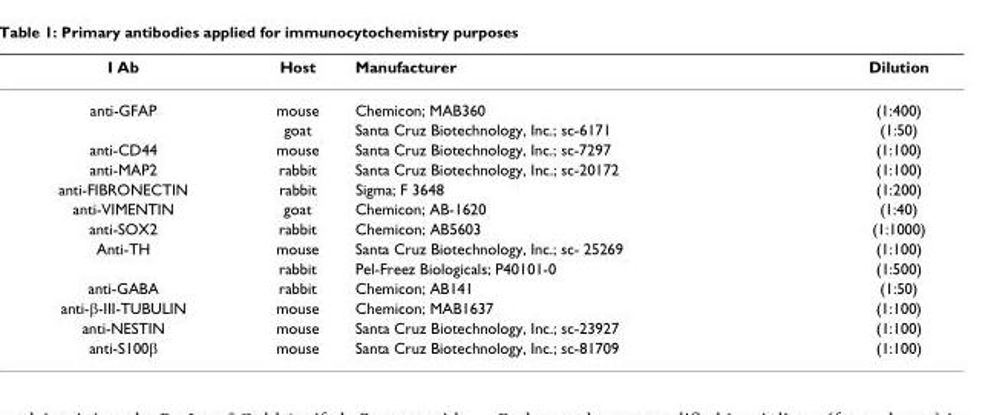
<table><thead><tr><td>I Ab</td><td>Host</td><td>Manufacturer</td><td>Dilution</td></tr></thead><tbody><tr><td rowspan="2">anti-GFAP</td><td>mouse</td><td>Chemicon; MAB360</td><td>(1:400)</td></tr><tr><td>goat</td><td>Santa Cruz Biotechnology, Inc.; sc-6171</td><td>(1:50)</td></tr><tr><td>anti-CD44</td><td>mouse</td><td>Santa Cruz Biotechnology, Inc.; sc-7297</td><td>(1:100)</td></tr><tr><td>anti-MAP2</td><td>rabbit</td><td>Santa Cruz Biotechnology, Inc.; sc-20172</td><td>(1:100)</td></tr><tr><td>anti-FIBRONECTIN</td><td>rabbit</td><td>Sigma; F 3648</td><td>(1:200)</td></tr><tr><td>anti-VIMENTIN</td><td>goat</td><td>Chemicon; AB-1620</td><td>(1:40)</td></tr><tr><td>anti-SOX2</td><td>rabbit</td><td>Chemicon; AB5603</td><td>(1:1000)</td></tr><tr><td rowspan="2">Anti-TH</td><td>mouse</td><td>Santa Cruz Biotechnology, Inc.; sc- 25269</td><td>(1:100)</td></tr><tr><td>rabbit</td><td>Pel-Freez Biologicals; P40101-0</td><td>(1:500)</td></tr><tr><td>anti-GABA</td><td>rabbit</td><td>Chemicon; AB141</td><td>(1:50)</td></tr><tr><td>anti-β-III-TUBULIN</td><td>mouse</td><td>Chemicon; MAB1637</td><td>(1:100)</td></tr><tr><td>anti-NESTIN</td><td>mouse</td><td>Santa Cruz Biotechnology, Inc.; sc-23927</td><td>(1:100)</td></tr><tr><td>anti-S100β</td><td>mouse</td><td>Santa Cruz Biotechnology, Inc.; sc-81709</td><td>(1:100)</td></tr></tbody></table>